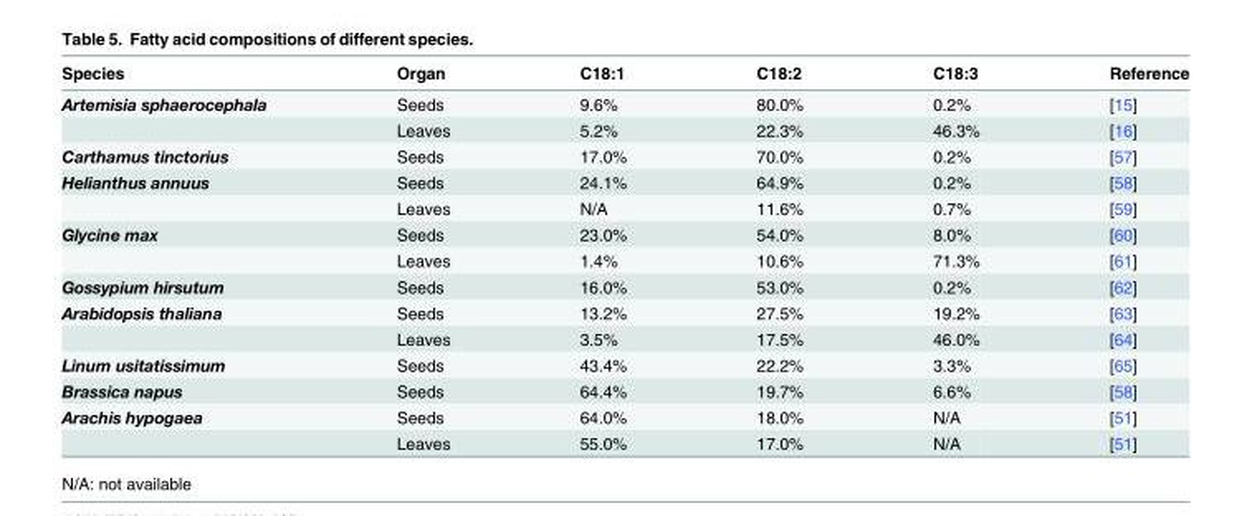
<table><thead><tr><td>Species</td><td>Organ</td><td>C18:1</td><td>C18:2</td><td>C18:3</td><td>Reference</td></tr></thead><tbody><tr><td rowspan="2">Artemisia sphaerocephala</td><td>Seeds</td><td>9.6%</td><td>80.0%</td><td>0.2%</td><td>[15]</td></tr><tr><td>Leaves</td><td>5.2%</td><td>22.3%</td><td>46.3%</td><td>[16]</td></tr><tr><td>Carthamus tinctorius</td><td>Seeds</td><td>17.0%</td><td>70.0%</td><td>0.2%</td><td>[57]</td></tr><tr><td rowspan="2">Helianthus annuus</td><td>Seeds</td><td>24.1%</td><td>64.9%</td><td>0.2%</td><td>[58]</td></tr><tr><td>Leaves</td><td>N/A</td><td>11.6%</td><td>0.7%</td><td>[59]</td></tr><tr><td rowspan="2">Glycine max</td><td>Seeds</td><td>23.0%</td><td>54.0%</td><td>8.0%</td><td>[60]</td></tr><tr><td>Leaves</td><td>1.4%</td><td>10.6%</td><td>71.3%</td><td>[61]</td></tr><tr><td>Gossypium hirsutum</td><td>Seeds</td><td>16.0%</td><td>53.0%</td><td>0.2%</td><td>[62]</td></tr><tr><td rowspan="2">Arabidopsis thaliana</td><td>Seeds</td><td>13.2%</td><td>27.5%</td><td>19.2%</td><td>[63]</td></tr><tr><td>Leaves</td><td>3.5%</td><td>17.5%</td><td>46.0%</td><td>[64]</td></tr><tr><td>Linum usitatissimum</td><td>Seeds</td><td>43.4%</td><td>22.2%</td><td>3.3%</td><td>[65]</td></tr><tr><td>Brassica napus</td><td>Seeds</td><td>64.4%</td><td>19.7%</td><td>6.6%</td><td>[58]</td></tr><tr><td rowspan="2">Arachis hypogaea</td><td>Seeds</td><td>64.0%</td><td>18.0%</td><td>N/A</td><td>[51]</td></tr><tr><td>Leaves</td><td>55.0%</td><td>17.0%</td><td>N/A</td><td>[51]</td></tr></tbody></table>